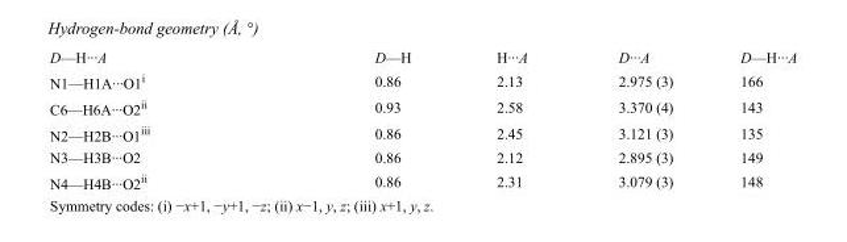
<table><tbody><tr><td>D—H···A</td><td>D—H</td><td>H···A</td><td>D···A</td><td>D—H···A</td></tr><tr><td>N1—H1A···O1<sup>i</sup></td><td>0.86</td><td>2.13</td><td>2.975 (3)</td><td>166</td></tr><tr><td>C6—H6A···O2<sup>ii</sup></td><td>0.93</td><td>2.58</td><td>3.370 (4)</td><td>143</td></tr><tr><td>N2—H2B···O1<sup>iii</sup></td><td>0.86</td><td>2.45</td><td>3.121 (3)</td><td>135</td></tr><tr><td>N3—H3B···O2</td><td>0.86</td><td>2.12</td><td>2.895 (3)</td><td>149</td></tr><tr><td>N4—H4B···O2<sup>ii</sup></td><td>0.86</td><td>2.31</td><td>3.079 (3)</td><td>148</td></tr></tbody></table>